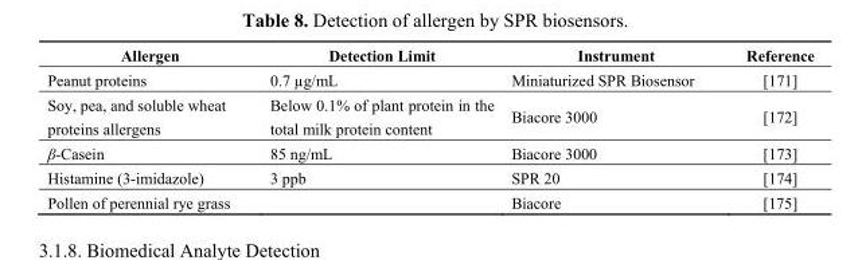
<table><thead><tr><td>Allergen</td><td>Detection Limit</td><td>Instrument</td><td>Reference</td></tr></thead><tbody><tr><td>Peanut proteins</td><td>0.7 µg/mL</td><td>Miniaturized SPR Biosensor</td><td>[171]</td></tr><tr><td>Soy, pea, and soluble wheat proteins allergens</td><td>Below 0.1% of plant protein in the total milk protein content</td><td>Biacore 3000</td><td>[172]</td></tr><tr><td>β-Casein</td><td>85 ng/mL</td><td>Biacore 3000</td><td>[173]</td></tr><tr><td>Histamine (3-imidazole)</td><td>3 ppb</td><td>SPR 20</td><td>[174]</td></tr><tr><td>Pollen of perennial rye grass</td><td></td><td>Biacore</td><td>[175]</td></tr></tbody></table>